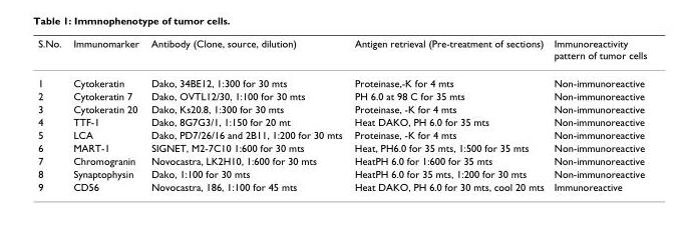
<table><thead><tr><td>S.No.</td><td>Immunomarker</td><td>Antibody (Clone, source, dilution)</td><td>Antigen retrieval (Pre-treatment of sections)</td><td>Immunoreactivity pattern of tumor cells</td></tr></thead><tbody><tr><td>1</td><td>Cytokeratin</td><td>Dako, 34BE12, 1:300 for 30 mts</td><td>Proteinase,-K for 4 mts</td><td>Non-immunoreactive</td></tr><tr><td>2</td><td>Cytokeratin 7</td><td>Dako, OVTL12/30, 1:100 for 30 mts</td><td>PH 6.0 at 98 C for 35 mts</td><td>Non-immunoreactive</td></tr><tr><td>3</td><td>Cytokeratin 20</td><td>Dako, Ks20.8, 1:300 for 30 mts</td><td>Proteinase, -K for 4 mts</td><td>Non-immunoreactive</td></tr><tr><td>4</td><td>TTF-1</td><td>Dako, 8G7G3/1, 1:150 for 20 mt</td><td>Heat DAKO, PH 6.0 for 35 mts</td><td>Non-immunoreactive</td></tr><tr><td>5</td><td>LCA</td><td>Dako, PD7/26/16 and 2B11, 1:200 for 30 mts</td><td>Proteinase, -K for 4 mts</td><td>Non-immunoreactive</td></tr><tr><td>6</td><td>MART-1</td><td>SIGNET, M2-7C10 1:600 for 30 mts</td><td>Heat, PH6.0 for 35 mts, 1:500 for 35 mts</td><td>Non-immunoreactive</td></tr><tr><td>7</td><td>Chromogranin</td><td>Novocastra, LK2H10, 1:600 for 30 mts</td><td>HeatPH 6.0 for 1:600 for 35 mts</td><td>Non-immunoreactive</td></tr><tr><td>8</td><td>Synaptophysin</td><td>Dako, 1:100 for 30 mts</td><td>HeatPH 6.0 for 35 mts, 1:200 for 30 mts</td><td>Non-immunoreactive</td></tr><tr><td>9</td><td>CD56</td><td>Novocastra, 186, 1:100 for 45 mts</td><td>Heat DAKO, PH 6.0 for 30 mts, cool 20 mts</td><td>Immunoreactive</td></tr></tbody></table>